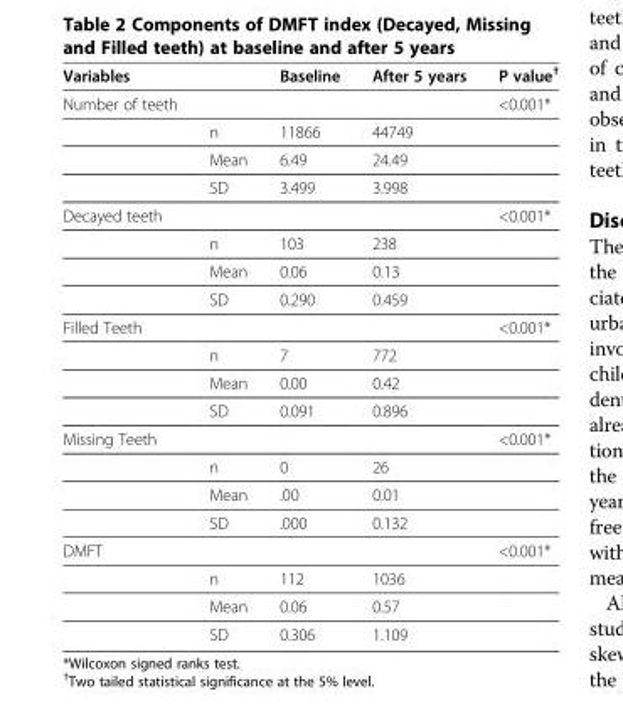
<table><thead><tr><td>Variables</td><td></td><td>Baseline</td><td>After 5 years</td><td>P value<sup>†</sup></td></tr></thead><tbody><tr><td rowspan="4">Number of teeth</td><td></td><td></td><td></td><td>&lt;0.001*</td></tr><tr><td>n</td><td>11866</td><td>44749</td><td></td></tr><tr><td>Mean</td><td>6.49</td><td>24.49</td><td></td></tr><tr><td>SD</td><td>3.499</td><td>3.998</td><td></td></tr><tr><td rowspan="4">Decayed teeth</td><td></td><td></td><td></td><td>&lt;0.001*</td></tr><tr><td>n</td><td>103</td><td>238</td><td></td></tr><tr><td>Mean</td><td>0.06</td><td>0.13</td><td></td></tr><tr><td>SD</td><td>0.290</td><td>0.459</td><td></td></tr><tr><td rowspan="4">Filled Teeth</td><td></td><td></td><td></td><td>&lt;0.001*</td></tr><tr><td>n</td><td>7</td><td>772</td><td></td></tr><tr><td>Mean</td><td>0.00</td><td>0.42</td><td></td></tr><tr><td>SD</td><td>0.091</td><td>0.896</td><td></td></tr><tr><td rowspan="4">Missing Teeth</td><td></td><td></td><td></td><td>&lt;0.001*</td></tr><tr><td>n</td><td>0</td><td>26</td><td></td></tr><tr><td>Mean</td><td>.00</td><td>0.01</td><td></td></tr><tr><td>SD</td><td>.000</td><td>0.132</td><td></td></tr><tr><td rowspan="4">DMFT</td><td></td><td></td><td></td><td>&lt;0.001*</td></tr><tr><td>n</td><td>112</td><td>1036</td><td></td></tr><tr><td>Mean</td><td>0.06</td><td>0.57</td><td></td></tr><tr><td>SD</td><td>0.306</td><td>1.109</td><td></td></tr></tbody></table>